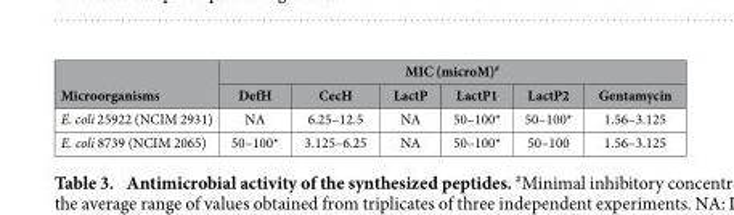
<table><thead><tr><td rowspan="2">Microorganisms</td><td colspan="6">MIC (microM)<sup>#</sup></td></tr><tr><td>DefH</td><td>CecH</td><td>LactP</td><td>LactP1</td><td>LactP2</td><td>Gentamycin</td></tr></thead><tbody><tr><td>E. coli 25922 (NCIM 2931)</td><td>NA</td><td>6.25–12.5</td><td>NA</td><td>50–100*</td><td>50–100*</td><td>1.56–3.125</td></tr><tr><td>E. coli 8739 (NCIM 2065)</td><td>50–100*</td><td>3.125–6.25</td><td>NA</td><td>50–100*</td><td>50–100</td><td>1.56–3.125</td></tr></tbody></table>